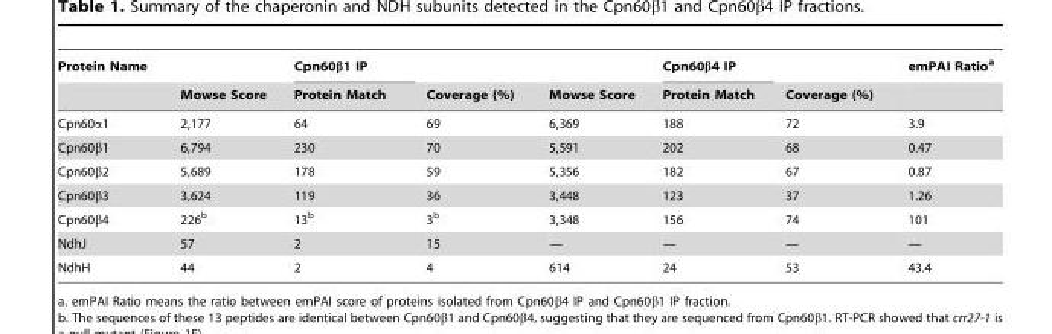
<table><thead><tr><td rowspan="2">Protein Name</td><td rowspan="2">Mowse Score</td><td rowspan="2">Cpn60β1 IP Protein Match</td><td rowspan="2">Coverage (%)</td><td rowspan="2">Mowse Score</td><td rowspan="2">Cpn60β4 IP Protein Match</td><td rowspan="2">Coverage (%)</td><td rowspan="2">emPAI Ratioa</td></tr><tr></tr></thead><tbody><tr><td>Cpn60α1</td><td>2,177</td><td>64</td><td>69</td><td>6,369</td><td>188</td><td>72</td><td>3.9</td></tr><tr><td>Cpn60β1</td><td>6,794</td><td>230</td><td>70</td><td>5,591</td><td>202</td><td>68</td><td>0.47</td></tr><tr><td>Cpn60β2</td><td>5,689</td><td>178</td><td>59</td><td>5,356</td><td>182</td><td>67</td><td>0.87</td></tr><tr><td>Cpn60β3</td><td>3,624</td><td>119</td><td>36</td><td>3,448</td><td>123</td><td>37</td><td>1.26</td></tr><tr><td>Cpn60β4</td><td>226b</td><td>13b</td><td>3b</td><td>3,348</td><td>156</td><td>74</td><td>101</td></tr><tr><td>NdhJ</td><td>57</td><td>2</td><td>15</td><td>—</td><td>—</td><td>—</td><td>—</td></tr><tr><td>NdhH</td><td>44</td><td>2</td><td>4</td><td>614</td><td>24</td><td>53</td><td>43.4</td></tr></tbody></table>